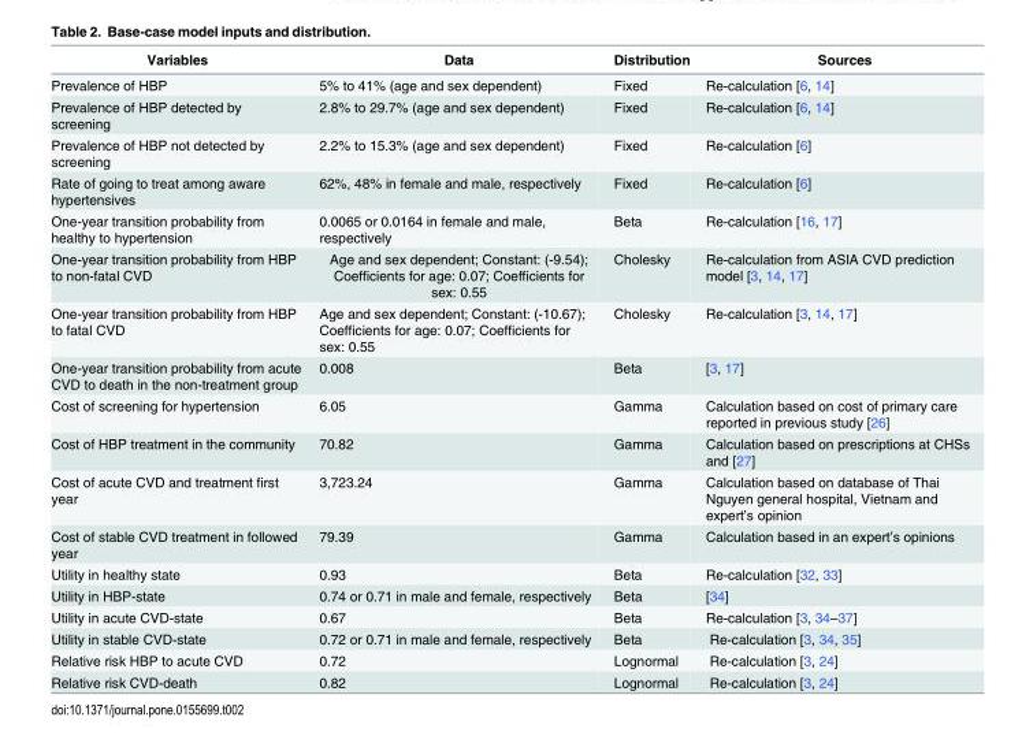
<table><thead><tr><td>Variables</td><td>Data</td><td>Distribution</td><td>Sources</td></tr></thead><tbody><tr><td>Prevalence of HBP</td><td>5% to 41% (age and sex dependent)</td><td>Fixed</td><td>Re-calculation [6, 14]</td></tr><tr><td>Prevalence of HBP detected by screening</td><td>2.8% to 29.7% (age and sex dependent)</td><td>Fixed</td><td>Re-calculation [6, 14]</td></tr><tr><td>Prevalence of HBP not detected by screening</td><td>2.2% to 15.3% (age and sex dependent)</td><td>Fixed</td><td>Re-calculation [6]</td></tr><tr><td>Rate of going to treat among aware hypertensives</td><td>62%, 48% in female and male, respectively</td><td>Fixed</td><td>Re-calculation [6]</td></tr><tr><td>One-year transition probability from healthy to hypertension</td><td>0.0065 or 0.0164 in female and male, respectively</td><td>Beta</td><td>Re-calculation [16, 17]</td></tr><tr><td>One-year transition probability from HBP to non-fatal CVD</td><td>Age and sex dependent; Constant: (-9.54); Coefficients for age: 0.07; Coefficients for sex: 0.55</td><td>Cholesky</td><td>Re-calculation from ASIA CVD prediction model [3, 14, 17]</td></tr><tr><td>One-year transition probability from HBP to fatal CVD</td><td>Age and sex dependent; Constant: (-10.67); Coefficients for age: 0.07; Coefficients for sex: 0.55</td><td>Cholesky</td><td>Re-calculation [3, 14, 17]</td></tr><tr><td>One-year transition probability from acute CVD to death in the non-treatment group</td><td>0.008</td><td>Beta</td><td>[3, 17]</td></tr><tr><td>Cost of screening for hypertension</td><td>6.05</td><td>Gamma</td><td>Calculation based on cost of primary care reported in previous study [26]</td></tr><tr><td>Cost of HBP treatment in the community</td><td>70.82</td><td>Gamma</td><td>Calculation based on prescriptions at CHSs and [27]</td></tr><tr><td>Cost of acute CVD and treatment first year</td><td>3,723.24</td><td>Gamma</td><td>Calculation based on database of Thai Nguyen general hospital, Vietnam and expert’s opinion</td></tr><tr><td>Cost of stable CVD treatment in followed year</td><td>79.39</td><td>Gamma</td><td>Calculation based in an expert’s opinions</td></tr><tr><td>Utility in healthy state</td><td>0.93</td><td>Beta</td><td>Re-calculation [32, 33]</td></tr><tr><td>Utility in HBP-state</td><td>0.74 or 0.71 in male and female, respectively</td><td>Beta</td><td>[34]</td></tr><tr><td>Utility in acute CVD-state</td><td>0.67</td><td>Beta</td><td>Re-calculation [3, 34–37]</td></tr><tr><td>Utility in stable CVD-state</td><td>0.72 or 0.71 in male and female, respectively</td><td>Beta</td><td>Re-calculation [3, 34, 35]</td></tr><tr><td>Relative risk HBP to acute CVD</td><td>0.72</td><td>Lognormal</td><td>Re-calculation [3, 24]</td></tr><tr><td>Relative risk CVD-death</td><td>0.82</td><td>Lognormal</td><td>Re-calculation [3, 24]</td></tr></tbody></table>